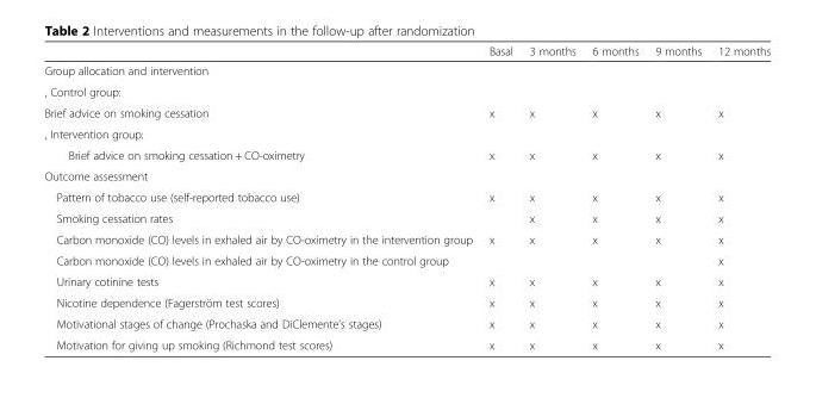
<table><thead><tr><td></td><td>Basal</td><td>3 months</td><td>6 months</td><td>9 months</td><td>12 months</td></tr></thead><tbody><tr><td colspan="6">Group allocation and intervention</td></tr><tr><td colspan="6">, Control group:</td></tr><tr><td>Brief advice on smoking cessation</td><td>x</td><td>x</td><td>x</td><td>x</td><td>x</td></tr><tr><td colspan="6">, Intervention group:</td></tr><tr><td>Brief advice on smoking cessation + CO-oximetry</td><td>x</td><td>x</td><td>x</td><td>x</td><td>x</td></tr><tr><td colspan="6">Outcome assessment</td></tr><tr><td>Pattern of tobacco use (self-reported tobacco use)</td><td>x</td><td>x</td><td>x</td><td>x</td><td>x</td></tr><tr><td>Smoking cessation rates</td><td></td><td>x</td><td>x</td><td>x</td><td>x</td></tr><tr><td>Carbon monoxide (CO) levels in exhaled air by CO-oximetry in the intervention group</td><td>x</td><td>x</td><td>x</td><td>x</td><td>x</td></tr><tr><td>Carbon monoxide (CO) levels in exhaled air by CO-oximetry in the control group</td><td></td><td></td><td></td><td></td><td>x</td></tr><tr><td>Urinary cotinine tests</td><td>x</td><td>x</td><td>x</td><td>x</td><td>x</td></tr><tr><td>Nicotine dependence (Fagerström test scores)</td><td>x</td><td>x</td><td>x</td><td>x</td><td>x</td></tr><tr><td>Motivational stages of change (Prochaska and DiClemente’s stages)</td><td>x</td><td>x</td><td>x</td><td>x</td><td>x</td></tr><tr><td>Motivation for giving up smoking (Richmond test scores)</td><td>x</td><td>x</td><td>x</td><td>x</td><td>x</td></tr></tbody></table>